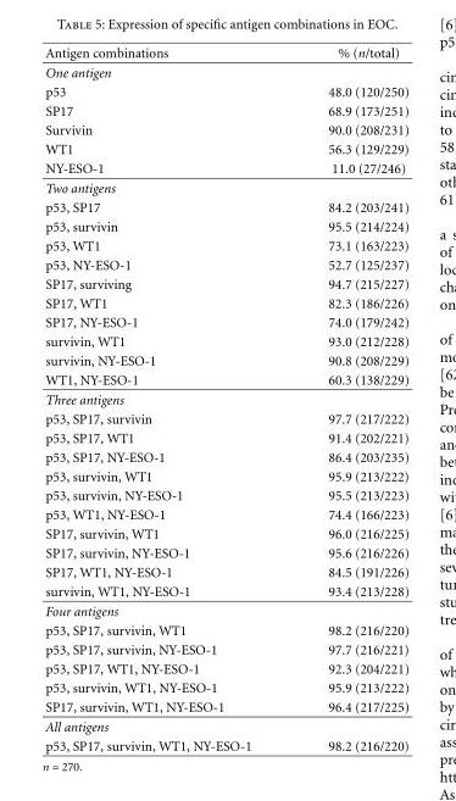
<table><thead><tr><td>Antigen combinations</td><td>% (n/total)</td></tr></thead><tbody><tr><td colspan="2">One antigen</td></tr><tr><td>p53</td><td>48.0 (120/250)</td></tr><tr><td>SP17</td><td>68.9 (173/251)</td></tr><tr><td>Survivin</td><td>90.0 (208/231)</td></tr><tr><td>WT1</td><td>56.3 (129/229)</td></tr><tr><td>NY-ESO-1</td><td>11.0 (27/246)</td></tr><tr><td colspan="2">Two antigens</td></tr><tr><td>p53, SP17</td><td>84.2 (203/241)</td></tr><tr><td>p53, survivin</td><td>95.5 (214/224)</td></tr><tr><td>p53, WT1</td><td>73.1 (163/223)</td></tr><tr><td>p53, NY-ESO-1</td><td>52.7 (125/237)</td></tr><tr><td>SP17, surviving</td><td>94.7 (215/227)</td></tr><tr><td>SP17, WT1</td><td>82.3 (186/226)</td></tr><tr><td>SP17, NY-ESO-1</td><td>74.0 (179/242)</td></tr><tr><td>survivin, WT1</td><td>93.0 (212/228)</td></tr><tr><td>survivin, NY-ESO-1</td><td>90.8 (208/229)</td></tr><tr><td>WT1, NY-ESO-1</td><td>60.3 (138/229)</td></tr><tr><td colspan="2">Three antigens</td></tr><tr><td>p53, SP17, survivin</td><td>97.7 (217/222)</td></tr><tr><td>p53, SP17, WT1</td><td>91.4 (202/221)</td></tr><tr><td>p53, SP17, NY-ESO-1</td><td>86.4 (203/235)</td></tr><tr><td>p53, survivin, WT1</td><td>95.9 (213/222)</td></tr><tr><td>p53, survivin, NY-ESO-1</td><td>95.5 (213/223)</td></tr><tr><td>p53, WT1, NY-ESO-1</td><td>74.4 (166/223)</td></tr><tr><td>SP17, survivin, WT1</td><td>96.0 (216/225)</td></tr><tr><td>SP17, survivin, NY-ESO-1</td><td>95.6 (216/226)</td></tr><tr><td>SP17, WT1, NY-ESO-1</td><td>84.5 (191/226)</td></tr><tr><td>survivin, WT1, NY-ESO-1</td><td>93.4 (213/228)</td></tr><tr><td colspan="2">Four antigens</td></tr><tr><td>p53, SP17, survivin, WT1</td><td>98.2 (216/220)</td></tr><tr><td>p53, SP17, survivin, NY-ESO-1</td><td>97.7 (216/221)</td></tr><tr><td>p53, SP17, WT1, NY-ESO-1</td><td>92.3 (204/221)</td></tr><tr><td>p53, survivin, WT1, NY-ESO-1</td><td>95.9 (213/222)</td></tr><tr><td>SP17, survivin, WT1, NY-ESO-1</td><td>96.4 (217/225)</td></tr><tr><td colspan="2">All antigens</td></tr><tr><td>p53, SP17, survivin, WT1, NY-ESO-1</td><td>98.2 (216/220)</td></tr></tbody></table>